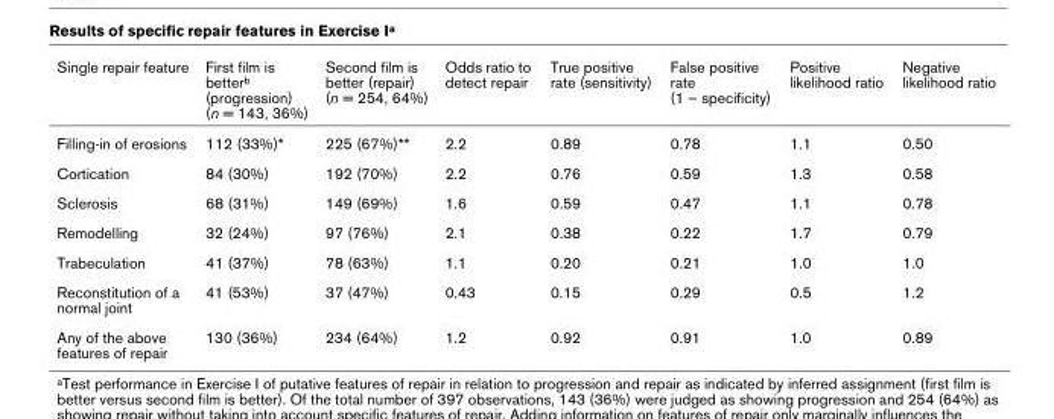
<table><thead><tr><td>Single repair feature</td><td>First film is better<sup>b</sup> (progression) (n = 143, 36%)</td><td>Second film is better (repair) (n = 254, 64%)</td><td>Odds ratio to detect repair</td><td>True positive rate (sensitivity)</td><td>False positive rate (1 – specificity)</td><td>Positive likelihood ratio</td><td>Negative likelihood ratio</td></tr></thead><tbody><tr><td>Filling-in of erosions</td><td>112 (33%)*</td><td>225 (67%)**</td><td>2.2</td><td>0.89</td><td>0.78</td><td>1.1</td><td>0.50</td></tr><tr><td>Cortication</td><td>84 (30%)</td><td>192 (70%)</td><td>2.2</td><td>0.76</td><td>0.59</td><td>1.3</td><td>0.58</td></tr><tr><td>Sclerosis</td><td>68 (31%)</td><td>149 (69%)</td><td>1.6</td><td>0.59</td><td>0.47</td><td>1.1</td><td>0.78</td></tr><tr><td>Remodelling</td><td>32 (24%)</td><td>97 (76%)</td><td>2.1</td><td>0.38</td><td>0.22</td><td>1.7</td><td>0.79</td></tr><tr><td>Trabeculation</td><td>41 (37%)</td><td>78 (63%)</td><td>1.1</td><td>0.20</td><td>0.21</td><td>1.0</td><td>1.0</td></tr><tr><td>Reconstitution of a normal joint</td><td>41 (53%)</td><td>37 (47%)</td><td>0.43</td><td>0.15</td><td>0.29</td><td>0.5</td><td>1.2</td></tr><tr><td>Any of the above features of repair</td><td>130 (36%)</td><td>234 (64%)</td><td>1.2</td><td>0.92</td><td>0.91</td><td>1.0</td><td>0.89</td></tr></tbody></table>